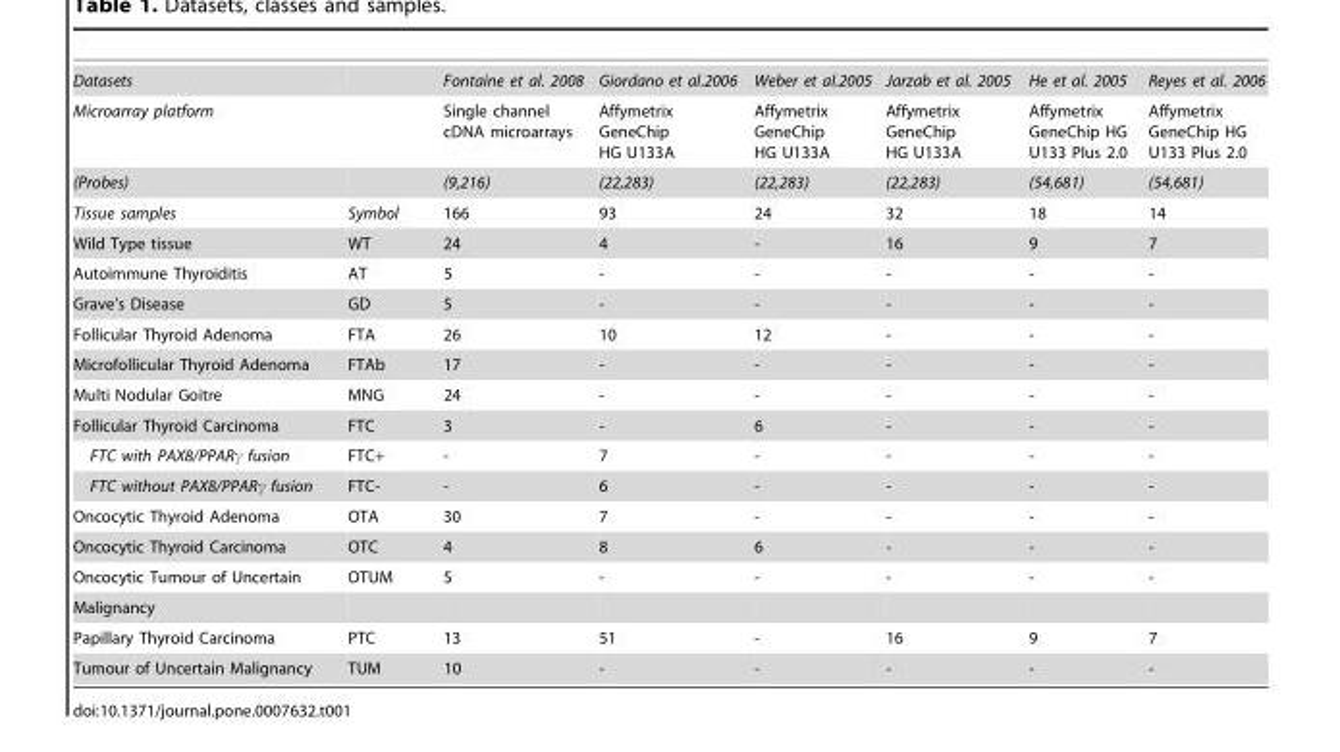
<table><tbody><tr><td>Datasets</td><td></td><td>Fontaine et al. 2008</td><td>Giordano et al.2006</td><td>Weber et al.2005</td><td>Jarzab et al. 2005</td><td>He et al. 2005</td><td>Reyes et al. 2006</td></tr><tr><td>Microarray platform</td><td></td><td>Single channel cDNA microarrays</td><td>Affymetrix GeneChip HG U133A</td><td>Affymetrix GeneChip HG U133A</td><td>Affymetrix GeneChip HG U133A</td><td>Affymetrix GeneChip HG U133 Plus 2.0</td><td>Affymetrix GeneChip HG U133 Plus 2.0</td></tr><tr><td>(Probes)</td><td></td><td>(9,216)</td><td>(22,283)</td><td>(22,283)</td><td>(22,283)</td><td>(54,681)</td><td>(54,681)</td></tr><tr><td>Tissue samples</td><td>Symbol</td><td>166</td><td>93</td><td>24</td><td>32</td><td>18</td><td>14</td></tr><tr><td>Wild Type tissue</td><td>WT</td><td>24</td><td>4</td><td>-</td><td>16</td><td>9</td><td>7</td></tr><tr><td>Autoimmune Thyroiditis</td><td>AT</td><td>5</td><td>-</td><td>-</td><td>-</td><td>-</td><td>-</td></tr><tr><td>Grave’s Disease</td><td>GD</td><td>5</td><td>-</td><td>-</td><td>-</td><td>-</td><td>-</td></tr><tr><td>Follicular Thyroid Adenoma</td><td>FTA</td><td>26</td><td>10</td><td>12</td><td>-</td><td>-</td><td>-</td></tr><tr><td>Microfollicular Thyroid Adenoma</td><td>FTAb</td><td>17</td><td>-</td><td>-</td><td>-</td><td>-</td><td>-</td></tr><tr><td>Multi Nodular Goitre</td><td>MNG</td><td>24</td><td>-</td><td>-</td><td>-</td><td>-</td><td>-</td></tr><tr><td>Follicular Thyroid Carcinoma</td><td>FTC</td><td>3</td><td>-</td><td>6</td><td>-</td><td>-</td><td>-</td></tr><tr><td>FTC with PAX8/PPARγ fusion</td><td>FTC+</td><td>-</td><td>7</td><td>-</td><td>-</td><td>-</td><td>-</td></tr><tr><td>FTC without PAX8/PPARγ fusion</td><td>FTC-</td><td>-</td><td>6</td><td>-</td><td>-</td><td>-</td><td>-</td></tr><tr><td>Oncocytic Thyroid Adenoma</td><td>OTA</td><td>30</td><td>7</td><td>-</td><td>-</td><td>-</td><td>-</td></tr><tr><td>Oncocytic Thyroid Carcinoma</td><td>OTC</td><td>4</td><td>8</td><td>6</td><td>-</td><td>-</td><td>-</td></tr><tr><td>Oncocytic Tumour of Uncertain</td><td>OTUM</td><td>5</td><td>-</td><td>-</td><td>-</td><td>-</td><td>-</td></tr><tr><td colspan="8">Malignancy</td></tr><tr><td>Papillary Thyroid Carcinoma</td><td>PTC</td><td>13</td><td>51</td><td>-</td><td>16</td><td>9</td><td>7</td></tr><tr><td>Tumour of Uncertain Malignancy</td><td>TUM</td><td>10</td><td>-</td><td>-</td><td>-</td><td>-</td><td>-</td></tr></tbody></table>